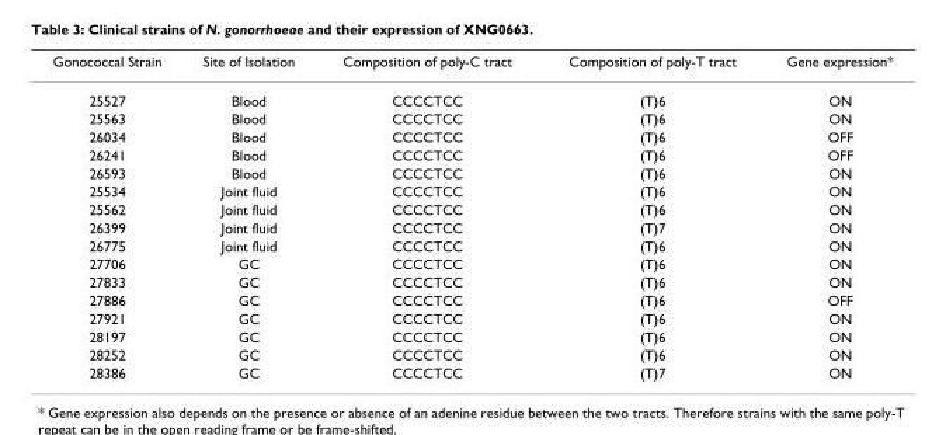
<table><thead><tr><td>Gonococcal Strain</td><td>Site of Isolation</td><td>Composition of poly-C tract</td><td>Composition of poly-T tract</td><td>Gene expression*</td></tr></thead><tbody><tr><td>25527</td><td>Blood</td><td>CCCCTCC</td><td>(T)6</td><td>ON</td></tr><tr><td>25563</td><td>Blood</td><td>CCCCTCC</td><td>(T)6</td><td>ON</td></tr><tr><td>26034</td><td>Blood</td><td>CCCCTCC</td><td>(T)6</td><td>OFF</td></tr><tr><td>26241</td><td>Blood</td><td>CCCCTCC</td><td>(T)6</td><td>OFF</td></tr><tr><td>26593</td><td>Blood</td><td>CCCCTCC</td><td>(T)6</td><td>ON</td></tr><tr><td>25534</td><td>Joint fluid</td><td>CCCCTCC</td><td>(T)6</td><td>ON</td></tr><tr><td>25562</td><td>Joint fluid</td><td>CCCCTCC</td><td>(T)6</td><td>ON</td></tr><tr><td>26399</td><td>Joint fluid</td><td>CCCCTCC</td><td>(T)7</td><td>ON</td></tr><tr><td>26775</td><td>Joint fluid</td><td>CCCCTCC</td><td>(T)6</td><td>ON</td></tr><tr><td>27706</td><td>GC</td><td>CCCCTCC</td><td>(T)6</td><td>ON</td></tr><tr><td>27833</td><td>GC</td><td>CCCCTCC</td><td>(T)6</td><td>ON</td></tr><tr><td>27886</td><td>GC</td><td>CCCCTCC</td><td>(T)6</td><td>OFF</td></tr><tr><td>27921</td><td>GC</td><td>CCCCTCC</td><td>(T)6</td><td>ON</td></tr><tr><td>28197</td><td>GC</td><td>CCCCTCC</td><td>(T)6</td><td>ON</td></tr><tr><td>28252</td><td>GC</td><td>CCCCTCC</td><td>(T)6</td><td>ON</td></tr><tr><td>28386</td><td>GC</td><td>CCCCTCC</td><td>(T)7</td><td>ON</td></tr></tbody></table>